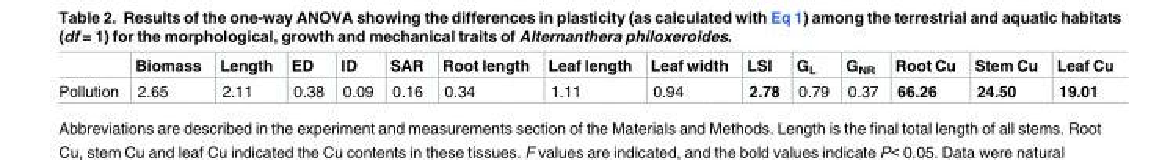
<table><thead><tr><td></td><td>Biomass</td><td>Length</td><td>ED</td><td>ID</td><td>SAR</td><td>Root length</td><td>Leaf length</td><td>Leaf width</td><td>LSI</td><td>G<sub>L</sub></td><td>G<sub>NR</sub></td><td>Root Cu</td><td>Stem Cu</td><td>Leaf Cu</td></tr></thead><tbody><tr><td>Pollution</td><td>2.65</td><td>2.11</td><td>0.38</td><td>0.09</td><td>0.16</td><td>0.34</td><td>1.11</td><td>0.94</td><td>2.78</td><td>0.79</td><td>0.37</td><td>66.26</td><td>24.50</td><td>19.01</td></tr></tbody></table>